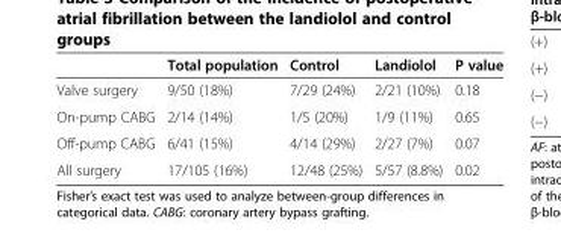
<table><thead><tr><td></td><td>Total population</td><td>Control</td><td>Landiolol</td><td>P value</td></tr></thead><tbody><tr><td>Valve surgery</td><td>9/50 (18%)</td><td>7/29 (24%)</td><td>2/21 (10%)</td><td>0.18</td></tr><tr><td>On-pump CABG</td><td>2/14 (14%)</td><td>1/5 (20%)</td><td>1/9 (11%)</td><td>0.65</td></tr><tr><td>Off-pump CABG</td><td>6/41 (15%)</td><td>4/14 (29%)</td><td>2/27 (7%)</td><td>0.07</td></tr><tr><td>All surgery</td><td>17/105 (16%)</td><td>12/48 (25%)</td><td>5/57 (8.8%)</td><td>0.02</td></tr></tbody></table>